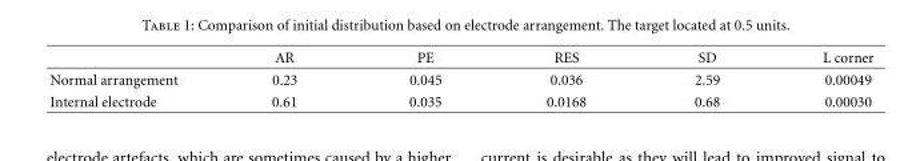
<table><thead><tr><td></td><td>AR</td><td>PE</td><td>RES</td><td>SD</td><td>L corner</td></tr></thead><tbody><tr><td>Normal arrangement</td><td>0.23</td><td>0.045</td><td>0.036</td><td>2.59</td><td>0.00049</td></tr><tr><td>Internal electrode</td><td>0.61</td><td>0.035</td><td>0.0168</td><td>0.68</td><td>0.00030</td></tr></tbody></table>